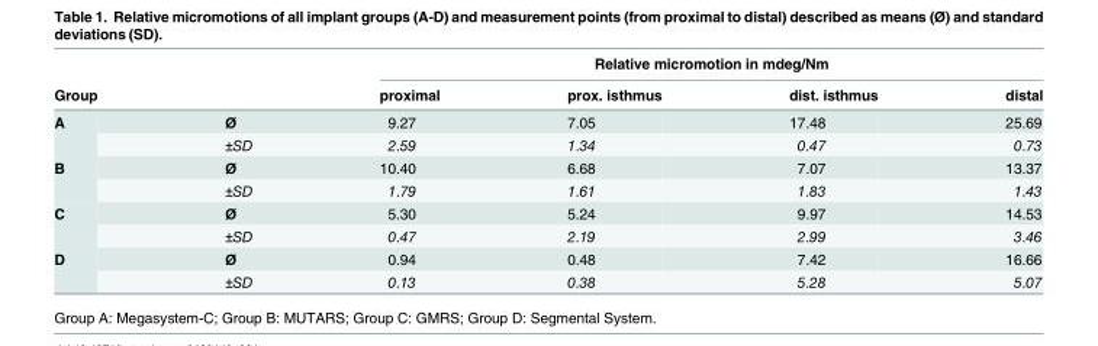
<table><thead><tr><td rowspan="2">Group</td><td rowspan="2"></td><td colspan="4">Relative micromotion in mdeg/Nm</td></tr><tr><td>proximal</td><td>prox. isthmus</td><td>dist. isthmus</td><td>distal</td></tr></thead><tbody><tr><td rowspan="2">A</td><td>Ø</td><td>9.27</td><td>7.05</td><td>17.48</td><td>25.69</td></tr><tr><td>±SD</td><td>2.59</td><td>1.34</td><td>0.47</td><td>0.73</td></tr><tr><td rowspan="2">B</td><td>Ø</td><td>10.40</td><td>6.68</td><td>7.07</td><td>13.37</td></tr><tr><td>±SD</td><td>1.79</td><td>1.61</td><td>1.83</td><td>1.43</td></tr><tr><td rowspan="2">C</td><td>Ø</td><td>5.30</td><td>5.24</td><td>9.97</td><td>14.53</td></tr><tr><td>±SD</td><td>0.47</td><td>2.19</td><td>2.99</td><td>3.46</td></tr><tr><td rowspan="2">D</td><td>Ø</td><td>0.94</td><td>0.48</td><td>7.42</td><td>16.66</td></tr><tr><td>±SD</td><td>0.13</td><td>0.38</td><td>5.28</td><td>5.07</td></tr></tbody></table>